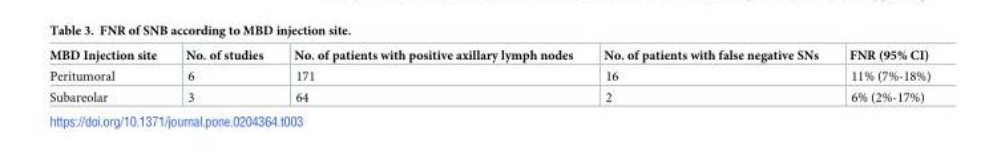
<table><thead><tr><td>MBD Injection site</td><td>No. of studies</td><td>No. of patients with positive axillary lymph nodes</td><td>No. of patients with false negative SNs</td><td>FNR (95% CI)</td></tr></thead><tbody><tr><td>Peritumoral</td><td>6</td><td>171</td><td>16</td><td>11% (7%-18%)</td></tr><tr><td>Subareolar</td><td>3</td><td>64</td><td>2</td><td>6% (2%-17%)</td></tr></tbody></table>